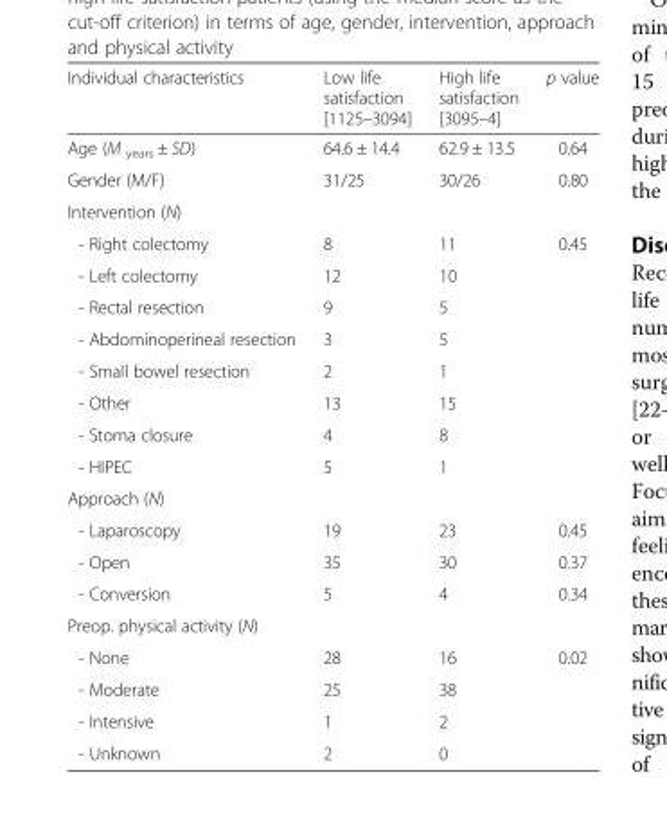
<table><thead><tr><td>Individual characteristics</td><td>Low life satisfaction [1125–3094]</td><td>High life satisfaction [3095–4]</td><td>p value</td></tr></thead><tbody><tr><td>Age (M <sub>years</sub> ± SD)</td><td>64.6 ± 14.4</td><td>62.9 ± 13.5</td><td>0.64</td></tr><tr><td>Gender (M/F)</td><td>31/25</td><td>30/26</td><td>0.80</td></tr><tr><td colspan="4">Intervention (N)</td></tr><tr><td>- Right colectomy</td><td>8</td><td>11</td><td rowspan="8">0.45</td></tr><tr><td>- Left colectomy</td><td>12</td><td>10</td></tr><tr><td>- Rectal resection</td><td>9</td><td>5</td></tr><tr><td>- Abdominoperineal resection</td><td>3</td><td>5</td></tr><tr><td>- Small bowel resection</td><td>2</td><td>1</td></tr><tr><td>- Other</td><td>13</td><td>15</td></tr><tr><td>- Stoma closure</td><td>4</td><td>8</td></tr><tr><td>- HIPEC</td><td>5</td><td>1</td></tr><tr><td colspan="4">Approach (N)</td></tr><tr><td>- Laparoscopy</td><td>19</td><td>23</td><td>0.45</td></tr><tr><td>- Open</td><td>35</td><td>30</td><td>0.37</td></tr><tr><td>- Conversion</td><td>5</td><td>4</td><td>0.34</td></tr><tr><td colspan="4">Preop. physical activity (N)</td></tr><tr><td>- None</td><td>28</td><td>16</td><td rowspan="4">0.02</td></tr><tr><td>- Moderate</td><td>25</td><td>38</td></tr><tr><td>- Intensive</td><td>1</td><td>2</td></tr><tr><td>- Unknown</td><td>2</td><td>0</td></tr></tbody></table>